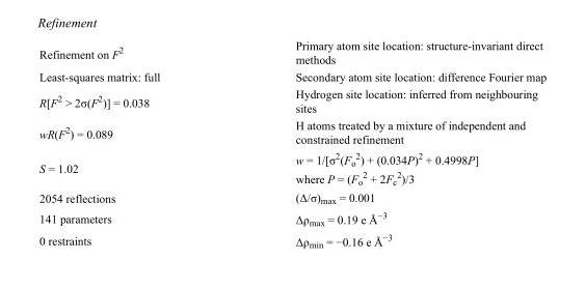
<table><tbody><tr><td>Refinement on F<sup>2</sup></td><td>Primary atom site location: structure-invariant direct methods</td></tr><tr><td>Least-squares matrix: full</td><td>Secondary atom site location: difference Fourier map</td></tr><tr><td>R[F<sup>2</sup> &gt; 2σ(F<sup>2</sup>)] = 0.038</td><td>Hydrogen site location: inferred from neighbouring sites</td></tr><tr><td>wR(F<sup>2</sup>) = 0.089</td><td>H atoms treated by a mixture of independent and constrained refinement</td></tr><tr><td>S = 1.02</td><td>w = 1/[σ<sup>2</sup>(F<sub>o</sub> <sup>2</sup>) + (0.034P)<sup>2</sup> + 0.4998P] where P = (F<sub>o</sub> <sup>2</sup> + 2F<sub>c</sub> <sup>2</sup>)/3</td></tr><tr><td>2054 reflections</td><td>(Δ/σ)<sub>max</sub> = 0.001</td></tr><tr><td>141 parameters</td><td>Δρ<sub>max</sub> = 0.19 e Å<sup>−3</sup></td></tr><tr><td>0 restraints</td><td>Δρ<sub>min</sub> = −0.16 e Å<sup>−3</sup></td></tr></tbody></table>